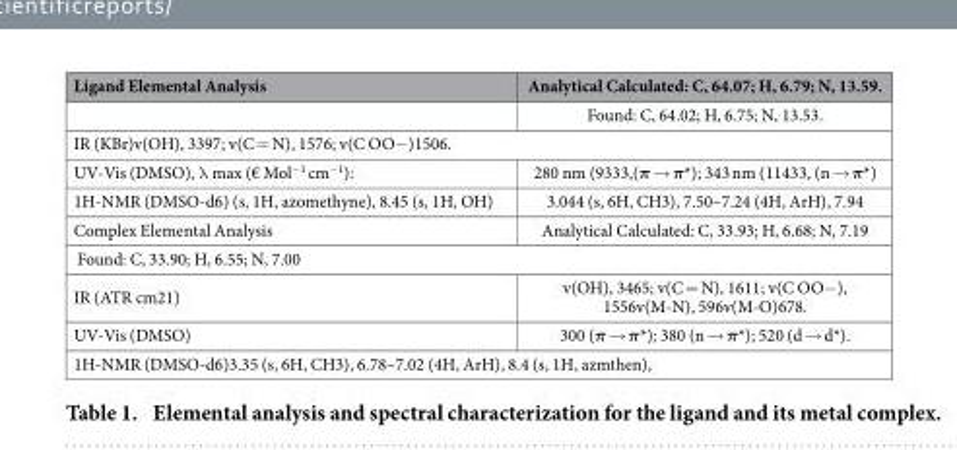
<table><thead><tr><td>Ligand Elemental Analysis</td><td>Analytical Calculated: C, 64.07; H, 6.79; N, 13.59.</td></tr></thead><tbody><tr><td></td><td>Found: C, 64.02; H, 6.75; N, 13.53.</td></tr><tr><td colspan="2">IR (KBr)v(OH), 3397; v(C = N), 1576; v(C OO− )1506.</td></tr><tr><td>UV-Vis (DMSO), λ max (€ Mol<sup>−1</sup> cm<sup>−1</sup>):</td><td>280 nm (9333,(π → π*); 343 nm (11433, (n → π*)</td></tr><tr><td>1H-NMR (DMSO-d6) (s, 1H, azomethyne), 8.45 (s, 1H, OH)</td><td>3.044 (s, 6H, CH3), 7.50–7.24 (4H, ArH), 7.94</td></tr><tr><td>Complex Elemental Analysis</td><td>Analytical Calculated: C, 33.93; H, 6.68; N, 7.19</td></tr><tr><td colspan="2">Found: C, 33.90; H, 6.55; N, 7.00</td></tr><tr><td>IR (ATR cm21)</td><td>v(OH), 3465; v(C = N), 1611; v(C OO− ), 1556v(M-N), 596v(M-O)678.</td></tr><tr><td>UV-Vis (DMSO)</td><td>300 (π → π*); 380 (n → π*); 520 (d → d*).</td></tr><tr><td colspan="2">1H-NMR (DMSO-d6)3.35 (s, 6H, CH3), 6.78–7.02 (4H, ArH), 8.4 (s, 1H, azmthen),</td></tr></tbody></table>